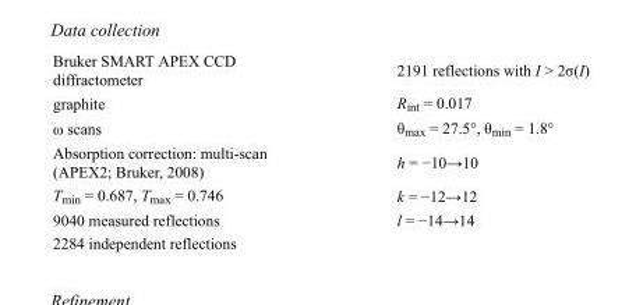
<table><tbody><tr><td>Bruker SMART APEX CCD diffractometer</td><td>2191 reflections with I &gt; 2σ(I)</td></tr><tr><td>graphite</td><td>R<sub>int</sub> = 0.017</td></tr><tr><td>ω scans</td><td>θ<sub>max</sub> = 27.5°, θ<sub>min</sub> = 1.8°</td></tr><tr><td>Absorption correction: multi-scan (APEX2; Bruker, 2008)</td><td>h = −10→10</td></tr><tr><td>T<sub>min</sub> = 0.687, T<sub>max</sub> = 0.746</td><td>k = −12→12</td></tr><tr><td>9040 measured reflections</td><td>l = −14→14</td></tr><tr><td>2284 independent reflections</td><td></td></tr></tbody></table>